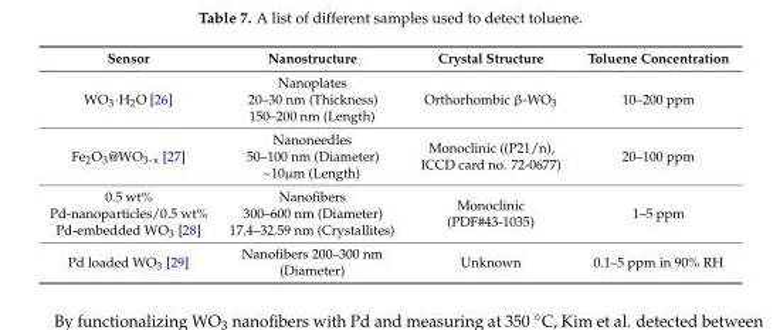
<table><thead><tr><td>Sensor</td><td>Nanostructure</td><td>Crystal Structure</td><td>Toluene Concentration</td></tr></thead><tbody><tr><td>WO<sub>3</sub>·H<sub>2</sub>O [26]</td><td>Nanoplates 20–30 nm (Thickness) 150–200 nm (Length)</td><td>Orthorhombic β-WO<sub>3</sub></td><td>10–200 ppm</td></tr><tr><td>Fe<sub>2</sub>O<sub>3</sub>@WO<sub>3-x</sub> [27]</td><td>Nanoneedles 50–100 nm (Diameter) ~10µm (Length)</td><td>Monoclinic ((P21/n), ICCD card no. 72-0677)</td><td>20–100 ppm</td></tr><tr><td>0.5 wt% Pd-nanoparticles/0.5 wt% Pd-embedded WO<sub>3</sub> [28]</td><td>Nanofibers 300–600 nm (Diameter) 17.4–32.59 nm (Crystallites)</td><td>Monoclinic (PDF#43-1035)</td><td>1–5 ppm</td></tr><tr><td>Pd loaded WO<sub>3</sub> [29]</td><td>Nanofibers 200–300 nm (Diameter)</td><td>Unknown</td><td>0.1–5 ppm in 90% RH</td></tr></tbody></table>